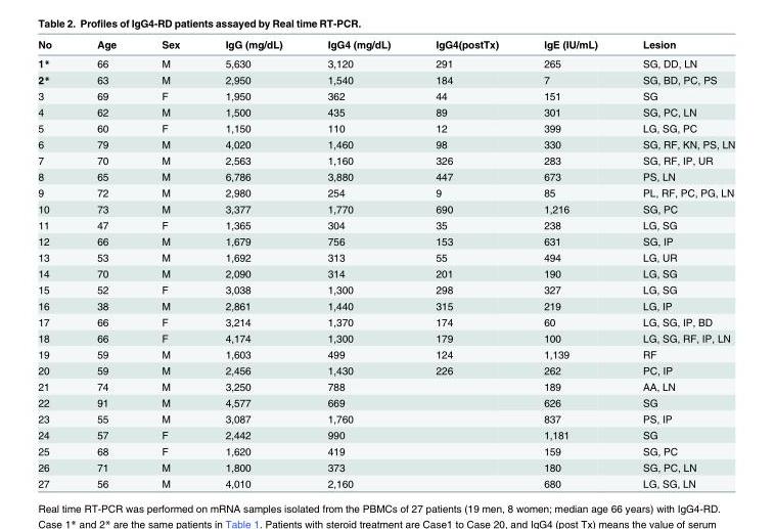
<table><thead><tr><td>No</td><td>Age</td><td>Sex</td><td>IgG (mg/dL)</td><td>IgG4 (mg/dL)</td><td>IgG4(postTx)</td><td>IgE (IU/mL)</td><td>Lesion</td></tr></thead><tbody><tr><td>1*</td><td>66</td><td>M</td><td>5,630</td><td>3,120</td><td>291</td><td>265</td><td>SG, DD, LN</td></tr><tr><td>2*</td><td>63</td><td>M</td><td>2,950</td><td>1,540</td><td>184</td><td>7</td><td>SG, BD, PC, PS</td></tr><tr><td>3</td><td>69</td><td>F</td><td>1,950</td><td>362</td><td>44</td><td>151</td><td>SG</td></tr><tr><td>4</td><td>62</td><td>M</td><td>1,500</td><td>435</td><td>89</td><td>301</td><td>SG, PC, LN</td></tr><tr><td>5</td><td>60</td><td>F</td><td>1,150</td><td>110</td><td>12</td><td>399</td><td>LG, SG, PC</td></tr><tr><td>6</td><td>79</td><td>M</td><td>4,020</td><td>1,460</td><td>98</td><td>330</td><td>SG, RF, KN, PS, LN</td></tr><tr><td>7</td><td>70</td><td>M</td><td>2,563</td><td>1,160</td><td>326</td><td>283</td><td>SG, RF, IP, UR</td></tr><tr><td>8</td><td>65</td><td>M</td><td>6,786</td><td>3,880</td><td>447</td><td>673</td><td>PS, LN</td></tr><tr><td>9</td><td>72</td><td>M</td><td>2,980</td><td>254</td><td>9</td><td>85</td><td>PL, RF, PC, PG, LN</td></tr><tr><td>10</td><td>73</td><td>M</td><td>3,377</td><td>1,770</td><td>690</td><td>1,216</td><td>SG, PC</td></tr><tr><td>11</td><td>47</td><td>F</td><td>1,365</td><td>304</td><td>35</td><td>238</td><td>LG, SG</td></tr><tr><td>12</td><td>66</td><td>M</td><td>1,679</td><td>756</td><td>153</td><td>631</td><td>SG, IP</td></tr><tr><td>13</td><td>53</td><td>M</td><td>1,692</td><td>313</td><td>55</td><td>494</td><td>LG, UR</td></tr><tr><td>14</td><td>70</td><td>M</td><td>2,090</td><td>314</td><td>201</td><td>190</td><td>LG, SG</td></tr><tr><td>15</td><td>52</td><td>F</td><td>3,038</td><td>1,300</td><td>298</td><td>327</td><td>LG, SG</td></tr><tr><td>16</td><td>38</td><td>M</td><td>2,861</td><td>1,440</td><td>315</td><td>219</td><td>LG, IP</td></tr><tr><td>17</td><td>66</td><td>F</td><td>3,214</td><td>1,370</td><td>174</td><td>60</td><td>LG, SG, IP, BD</td></tr><tr><td>18</td><td>66</td><td>F</td><td>4,174</td><td>1,300</td><td>179</td><td>100</td><td>LG, SG, RF, IP, LN</td></tr><tr><td>19</td><td>59</td><td>M</td><td>1,603</td><td>499</td><td>124</td><td>1,139</td><td>RF</td></tr><tr><td>20</td><td>59</td><td>M</td><td>2,456</td><td>1,430</td><td>226</td><td>262</td><td>PC, IP</td></tr><tr><td>21</td><td>74</td><td>M</td><td>3,250</td><td>788</td><td></td><td>189</td><td>AA, LN</td></tr><tr><td>22</td><td>91</td><td>M</td><td>4,577</td><td>669</td><td></td><td>626</td><td>SG</td></tr><tr><td>23</td><td>55</td><td>M</td><td>3,087</td><td>1,760</td><td></td><td>837</td><td>PS, IP</td></tr><tr><td>24</td><td>57</td><td>F</td><td>2,442</td><td>990</td><td></td><td>1,181</td><td>SG</td></tr><tr><td>25</td><td>68</td><td>F</td><td>1,620</td><td>419</td><td></td><td>159</td><td>SG, PC</td></tr><tr><td>26</td><td>71</td><td>M</td><td>1,800</td><td>373</td><td></td><td>180</td><td>SG, PC, LN</td></tr><tr><td>27</td><td>56</td><td>M</td><td>4,010</td><td>2,160</td><td></td><td>680</td><td>LG, SG, LN</td></tr></tbody></table>